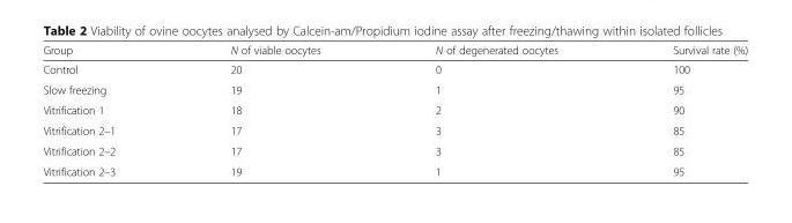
<table><thead><tr><td>Group</td><td>N of viable oocytes</td><td>N of degenerated oocytes</td><td>Survival rate (%)</td></tr></thead><tbody><tr><td>Control</td><td>20</td><td>0</td><td>100</td></tr><tr><td>Slow freezing</td><td>19</td><td>1</td><td>95</td></tr><tr><td>Vitrification 1</td><td>18</td><td>2</td><td>90</td></tr><tr><td>Vitrification 2–1</td><td>17</td><td>3</td><td>85</td></tr><tr><td>Vitrification 2–2</td><td>17</td><td>3</td><td>85</td></tr><tr><td>Vitrification 2–3</td><td>19</td><td>1</td><td>95</td></tr></tbody></table>